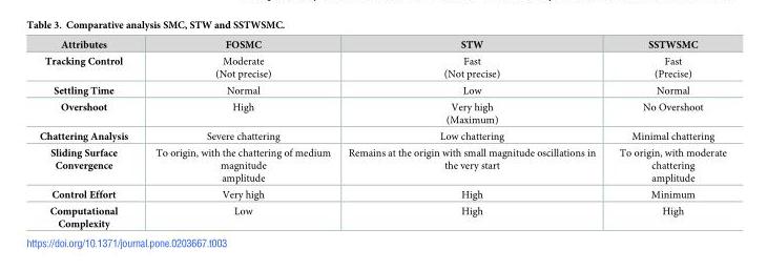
<table><thead><tr><td>Attributes</td><td>FOSMC</td><td>STW</td><td>SSTWSMC</td></tr></thead><tbody><tr><td>Tracking Control</td><td>Moderate (Not precise)</td><td>Fast (Not precise)</td><td>Fast (Precise)</td></tr><tr><td>Settling Time</td><td>Normal</td><td>Low</td><td>Normal</td></tr><tr><td>Overshoot</td><td>High</td><td>Very high (Maximum)</td><td>No Overshoot</td></tr><tr><td>Chattering Analysis</td><td>Severe chattering</td><td>Low chattering</td><td>Minimal chattering</td></tr><tr><td>Sliding Surface Convergence</td><td>To origin, with the chattering of medium magnitude amplitude</td><td>Remains at the origin with small magnitude oscillations in the very start</td><td>To origin, with moderate chattering amplitude</td></tr><tr><td>Control Effort</td><td>Very high</td><td>High</td><td>Minimum</td></tr><tr><td>Computational Complexity</td><td>Low</td><td>High</td><td>High</td></tr></tbody></table>